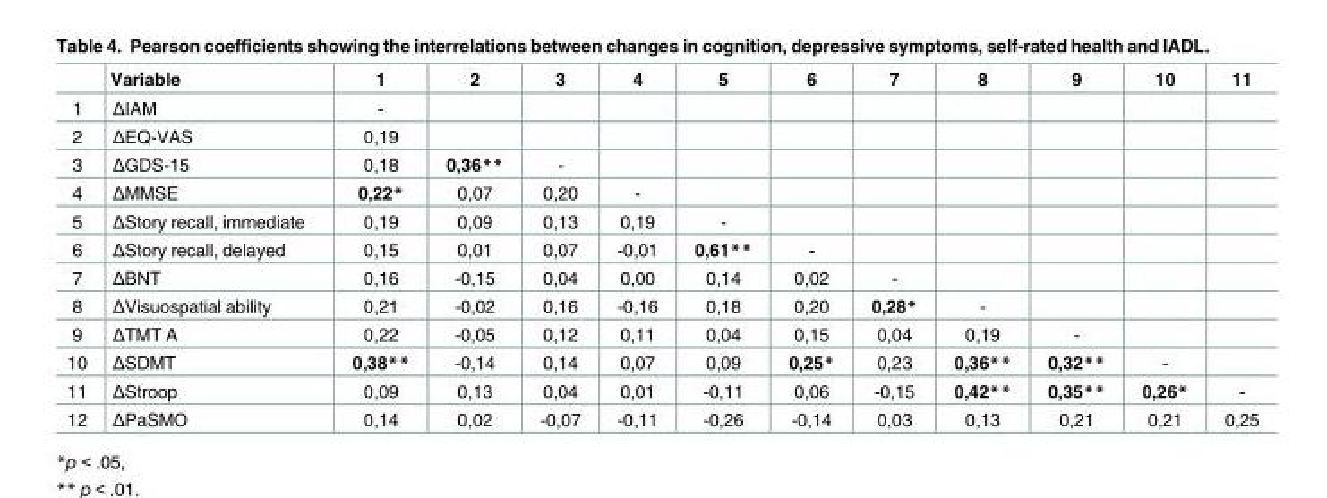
<table><thead><tr><td></td><td>Variable</td><td>1</td><td>2</td><td>3</td><td>4</td><td>5</td><td>6</td><td>7</td><td>8</td><td>9</td><td>10</td><td>11</td></tr></thead><tbody><tr><td>1</td><td>ΔIAM</td><td>-</td><td></td><td></td><td></td><td></td><td></td><td></td><td></td><td></td><td></td><td></td></tr><tr><td>2</td><td>ΔEQ-VAS</td><td>0,19</td><td></td><td></td><td></td><td></td><td></td><td></td><td></td><td></td><td></td><td></td></tr><tr><td>3</td><td>ΔGDS-15</td><td>0,18</td><td>0,36**</td><td>-</td><td></td><td></td><td></td><td></td><td></td><td></td><td></td><td></td></tr><tr><td>4</td><td>ΔMMSE</td><td>0,22*</td><td>0,07</td><td>0,20</td><td>-</td><td></td><td></td><td></td><td></td><td></td><td></td><td></td></tr><tr><td>5</td><td>ΔStory recall, immediate</td><td>0,19</td><td>0,09</td><td>0,13</td><td>0,19</td><td>-</td><td></td><td></td><td></td><td></td><td></td><td></td></tr><tr><td>6</td><td>ΔStory recall, delayed</td><td>0,15</td><td>0,01</td><td>0,07</td><td>-0,01</td><td>0,61**</td><td>-</td><td></td><td></td><td></td><td></td><td></td></tr><tr><td>7</td><td>ΔBNT</td><td>0,16</td><td>-0,15</td><td>0,04</td><td>0,00</td><td>0,14</td><td>0,02</td><td>-</td><td></td><td></td><td></td><td></td></tr><tr><td>8</td><td>ΔVisuospatial ability</td><td>0,21</td><td>-0,02</td><td>0,16</td><td>-0,16</td><td>0,18</td><td>0,20</td><td>0,28*</td><td>-</td><td></td><td></td><td></td></tr><tr><td>9</td><td>ΔTMT A</td><td>0,22</td><td>-0,05</td><td>0,12</td><td>0,11</td><td>0,04</td><td>0,15</td><td>0,04</td><td>0,19</td><td>-</td><td></td><td></td></tr><tr><td>10</td><td>ΔSDMT</td><td>0,38**</td><td>-0,14</td><td>0,14</td><td>0,07</td><td>0,09</td><td>0,25*</td><td>0,23</td><td>0,36**</td><td>0,32**</td><td>-</td><td></td></tr><tr><td>11</td><td>ΔStroop</td><td>0,09</td><td>0,13</td><td>0,04</td><td>0,01</td><td>-0,11</td><td>0,06</td><td>-0,15</td><td>0,42**</td><td>0,35**</td><td>0,26*</td><td>-</td></tr><tr><td>12</td><td>ΔPaSMO</td><td>0,14</td><td>0,02</td><td>-0,07</td><td>-0,11</td><td>-0,26</td><td>-0,14</td><td>0,03</td><td>0,13</td><td>0,21</td><td>0,21</td><td>0,25</td></tr></tbody></table>